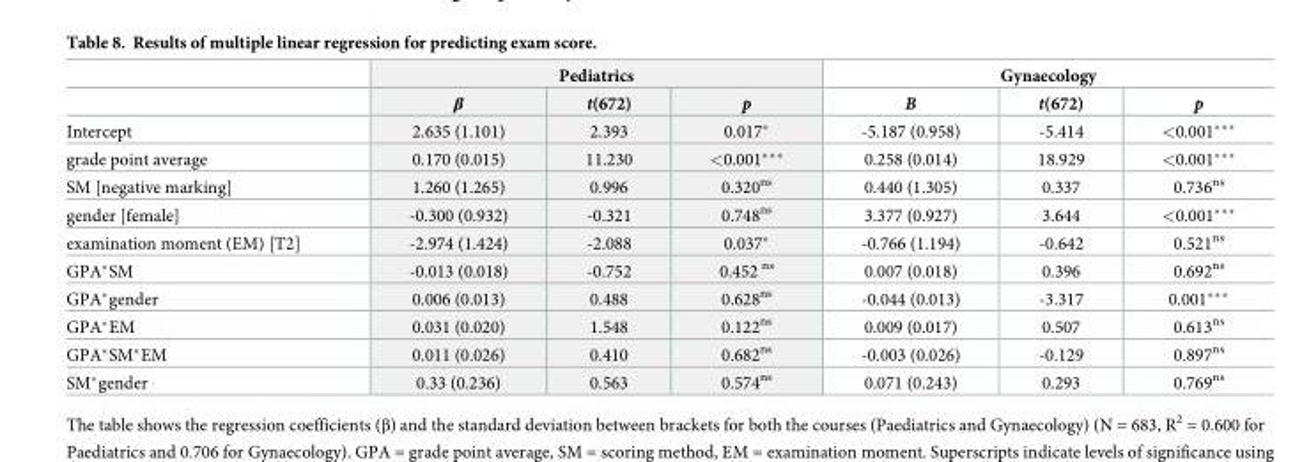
<table><thead><tr><td rowspan="2"></td><td colspan="3">Pediatrics</td><td colspan="3">Gynaecology</td></tr><tr><td>β</td><td>t(672)</td><td>p</td><td>Β</td><td>t(672)</td><td>p</td></tr></thead><tbody><tr><td>Intercept</td><td>2.635 (1.101)</td><td>2.393</td><td>0.017*</td><td>-5.187 (0.958)</td><td>-5.414</td><td>&lt;0.001***</td></tr><tr><td>grade point average</td><td>0.170 (0.015)</td><td>11.230</td><td>&lt;0.001***</td><td>0.258 (0.014)</td><td>18.929</td><td>&lt;0.001***</td></tr><tr><td>SM [negative marking]</td><td>1.260 (1.265)</td><td>0.996</td><td>0.320<sup>ns</sup></td><td>0.440 (1.305)</td><td>0.337</td><td>0.736<sup>ns</sup></td></tr><tr><td>gender [female]</td><td>-0.300 (0.932)</td><td>-0.321</td><td>0.748<sup>ns</sup></td><td>3.377 (0.927)</td><td>3.644</td><td>&lt;0.001***</td></tr><tr><td>examination moment (EM) [T2]</td><td>-2.974 (1.424)</td><td>-2.088</td><td>0.037*</td><td>-0.766 (1.194)</td><td>-0.642</td><td>0.521<sup>ns</sup></td></tr><tr><td>GPA*SM</td><td>-0.013 (0.018)</td><td>-0.752</td><td>0.452 <sup>ns</sup></td><td>0.007 (0.018)</td><td>0.396</td><td>0.692<sup>ns</sup></td></tr><tr><td>GPA*gender</td><td>0.006 (0.013)</td><td>0.488</td><td>0.628<sup>ns</sup></td><td>-0.044 (0.013)</td><td>-3.317</td><td>0.001***</td></tr><tr><td>GPA*EM</td><td>0.031 (0.020)</td><td>1.548</td><td>0.122<sup>ns</sup></td><td>0.009 (0.017)</td><td>0.507</td><td>0.613<sup>ns</sup></td></tr><tr><td>GPA*SM*EM</td><td>0.011 (0.026)</td><td>0.410</td><td>0.682<sup>ns</sup></td><td>-0.003 (0.026)</td><td>-0.129</td><td>0.897<sup>ns</sup></td></tr><tr><td>SM*gender</td><td>0.33 (0.236)</td><td>0.563</td><td>0.574<sup>ns</sup></td><td>0.071 (0.243)</td><td>0.293</td><td>0.769<sup>ns</sup></td></tr></tbody></table>